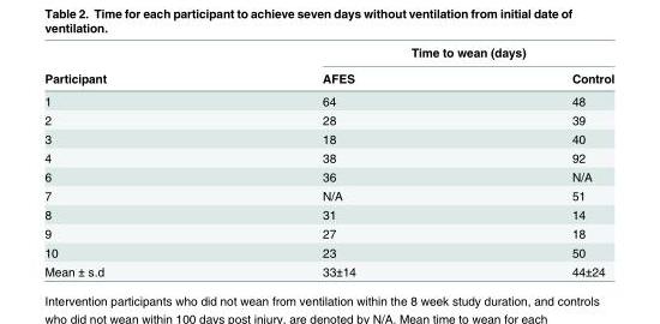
<table><thead><tr><td rowspan="2">Participant</td><td colspan="2">Time to wean (days)</td></tr><tr><td>AFES</td><td>Control</td></tr></thead><tbody><tr><td>1</td><td>64</td><td>48</td></tr><tr><td>2</td><td>28</td><td>39</td></tr><tr><td>3</td><td>18</td><td>40</td></tr><tr><td>4</td><td>38</td><td>92</td></tr><tr><td>6</td><td>36</td><td>N/A</td></tr><tr><td>7</td><td>N/A</td><td>51</td></tr><tr><td>8</td><td>31</td><td>14</td></tr><tr><td>9</td><td>27</td><td>18</td></tr><tr><td>10</td><td>23</td><td>50</td></tr><tr><td>Mean ± s.d</td><td>33±14</td><td>44±24</td></tr></tbody></table>